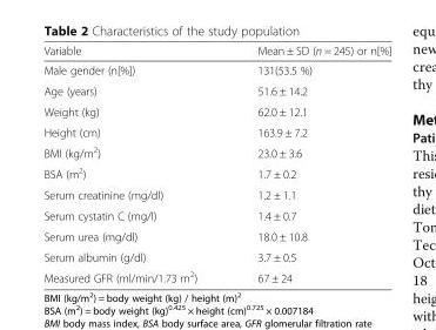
<table><thead><tr><td>Variable</td><td>Mean ± SD (n = 245) or n[%]</td></tr></thead><tbody><tr><td>Male gender (n[%])</td><td>131(53.5 %)</td></tr><tr><td>Age (years)</td><td>51.6 ± 14.2</td></tr><tr><td>Weight (kg)</td><td>62.0 ± 12.1</td></tr><tr><td>Height (cm)</td><td>163.9 ± 7.2</td></tr><tr><td>BMI (kg/m<sup>2</sup>)</td><td>23.0 ± 3.6</td></tr><tr><td>BSA (m<sup>2</sup>)</td><td>1.7 ± 0.2</td></tr><tr><td>Serum creatinine (mg/dl)</td><td>1.2 ± 1.1</td></tr><tr><td>Serum cystatin C (mg/l)</td><td>1.4 ± 0.7</td></tr><tr><td>Serum urea (mg/dl)</td><td>18.0 ± 10.8</td></tr><tr><td>Serum albumin (g/dl)</td><td>3.7 ± 0.5</td></tr><tr><td>Measured GFR (ml/min/1.73 m<sup>2</sup>)</td><td>67 ± 24</td></tr></tbody></table>